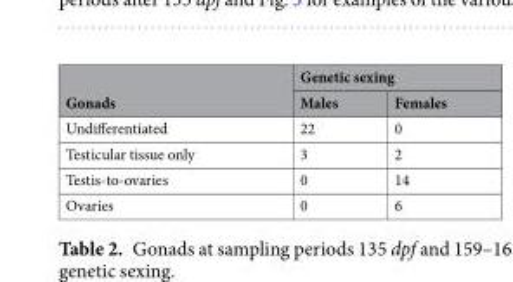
<table><thead><tr><td rowspan="2">Gonads</td><td colspan="2">Genetic sexing</td></tr><tr><td>Males</td><td>Females</td></tr></thead><tbody><tr><td>Undifferentiated</td><td>22</td><td>0</td></tr><tr><td>Testicular tissue only</td><td>3</td><td>2</td></tr><tr><td>Testis-to-ovaries</td><td>0</td><td>14</td></tr><tr><td>Ovaries</td><td>0</td><td>6</td></tr></tbody></table>